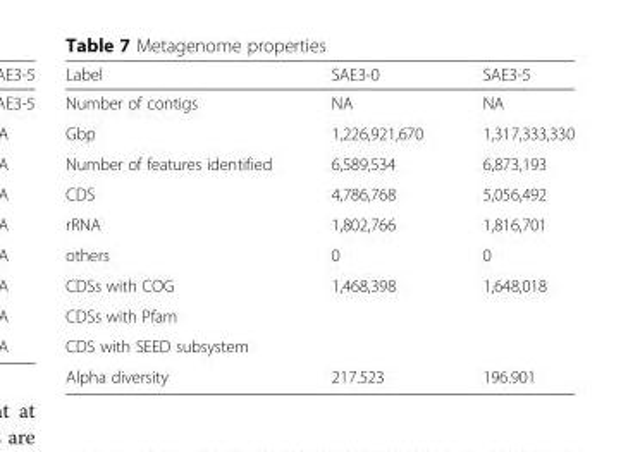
<table><thead><tr><td>Label</td><td>SAE3-0</td><td>SAE3-5</td></tr></thead><tbody><tr><td>Number of contigs</td><td>NA</td><td>NA</td></tr><tr><td>Gbp</td><td>1,226,921,670</td><td>1,317,333,330</td></tr><tr><td>Number of features identified</td><td>6,589,534</td><td>6,873,193</td></tr><tr><td>CDS</td><td>4,786,768</td><td>5,056,492</td></tr><tr><td>rRNA</td><td>1,802,766</td><td>1,816,701</td></tr><tr><td>others</td><td>0</td><td>0</td></tr><tr><td>CDSs with COG</td><td>1,468,398</td><td>1,648,018</td></tr><tr><td colspan="3">CDSs with Pfam</td></tr><tr><td colspan="3">CDS with SEED subsystem</td></tr><tr><td>Alpha diversity</td><td>217.523</td><td>196.901</td></tr></tbody></table>